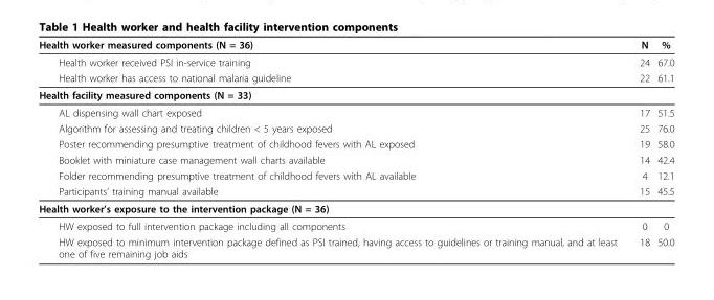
<table><thead><tr><td>Health worker measured components (N = 36)</td><td>N</td><td>%</td></tr></thead><tbody><tr><td>Health worker received PSI in-service training</td><td>24</td><td>67.0</td></tr><tr><td>Health worker has access to national malaria guideline</td><td>22</td><td>61.1</td></tr><tr><td colspan="3">Health facility measured components (N = 33)</td></tr><tr><td>AL dispensing wall chart exposed</td><td>17</td><td>51.5</td></tr><tr><td>Algorithm for assessing and treating children &lt; 5 years exposed</td><td>25</td><td>76.0</td></tr><tr><td>Poster recommending presumptive treatment of childhood fevers with AL exposed</td><td>19</td><td>58.0</td></tr><tr><td>Booklet with miniature case management wall charts available</td><td>14</td><td>42.4</td></tr><tr><td>Folder recommending presumptive treatment of childhood fevers with AL available</td><td>4</td><td>12.1</td></tr><tr><td>Participants’ training manual available</td><td>15</td><td>45.5</td></tr><tr><td colspan="3">Health worker’s exposure to the intervention package (N = 36)</td></tr><tr><td>HW exposed to full intervention package including all components</td><td>0</td><td>0</td></tr><tr><td>HW exposed to minimum intervention package defined as PSI trained, having access to guidelines or training manual, and at least one of five remaining job aids</td><td>18</td><td>50.0</td></tr></tbody></table>